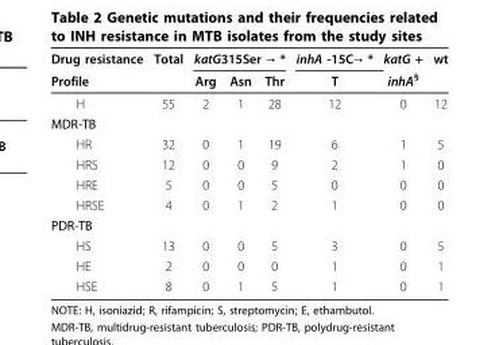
<table><thead><tr><td rowspan="2">Drug resistance Profile</td><td rowspan="2">Total</td><td colspan="3">katG315Ser → *</td><td rowspan="2">inhA -15C→ * T</td><td rowspan="2">katG + inhA<sup>§</sup></td><td rowspan="2">wt</td></tr><tr><td>Arg</td><td>Asn</td><td>Thr</td></tr></thead><tbody><tr><td>H</td><td>55</td><td>2</td><td>1</td><td>28</td><td>12</td><td>0</td><td>12</td></tr><tr><td colspan="8">MDR-TB</td></tr><tr><td>HR</td><td>32</td><td>0</td><td>1</td><td>19</td><td>6</td><td>1</td><td>5</td></tr><tr><td>HRS</td><td>12</td><td>0</td><td>0</td><td>9</td><td>2</td><td>1</td><td>0</td></tr><tr><td>HRE</td><td>5</td><td>0</td><td>0</td><td>5</td><td>0</td><td>0</td><td>0</td></tr><tr><td>HRSE</td><td>4</td><td>0</td><td>1</td><td>2</td><td>1</td><td>0</td><td>0</td></tr><tr><td colspan="8">PDR-TB</td></tr><tr><td>HS</td><td>13</td><td>0</td><td>0</td><td>5</td><td>3</td><td>0</td><td>5</td></tr><tr><td>HE</td><td>2</td><td>0</td><td>0</td><td>0</td><td>1</td><td>0</td><td>1</td></tr><tr><td>HSE</td><td>8</td><td>0</td><td>1</td><td>5</td><td>1</td><td>0</td><td>1</td></tr></tbody></table>